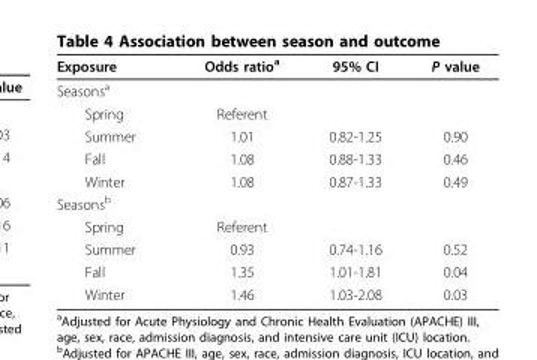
<table><thead><tr><td>Exposure</td><td>Odds ratio<sup>a</sup></td><td>95% CI</td><td>P value</td></tr></thead><tbody><tr><td colspan="4">Seasons<sup>a</sup></td></tr><tr><td>Spring</td><td>Referent</td><td></td><td></td></tr><tr><td>Summer</td><td>1.01</td><td>0.82-1.25</td><td>0.90</td></tr><tr><td>Fall</td><td>1.08</td><td>0.88-1.33</td><td>0.46</td></tr><tr><td>Winter</td><td>1.08</td><td>0.87-1.33</td><td>0.49</td></tr><tr><td colspan="4">Seasons<sup>b</sup></td></tr><tr><td>Spring</td><td>Referent</td><td></td><td></td></tr><tr><td>Summer</td><td>0.93</td><td>0.74-1.16</td><td>0.52</td></tr><tr><td>Fall</td><td>1.35</td><td>1.01-1.81</td><td>0.04</td></tr><tr><td>Winter</td><td>1.46</td><td>1.03-2.08</td><td>0.03</td></tr></tbody></table>